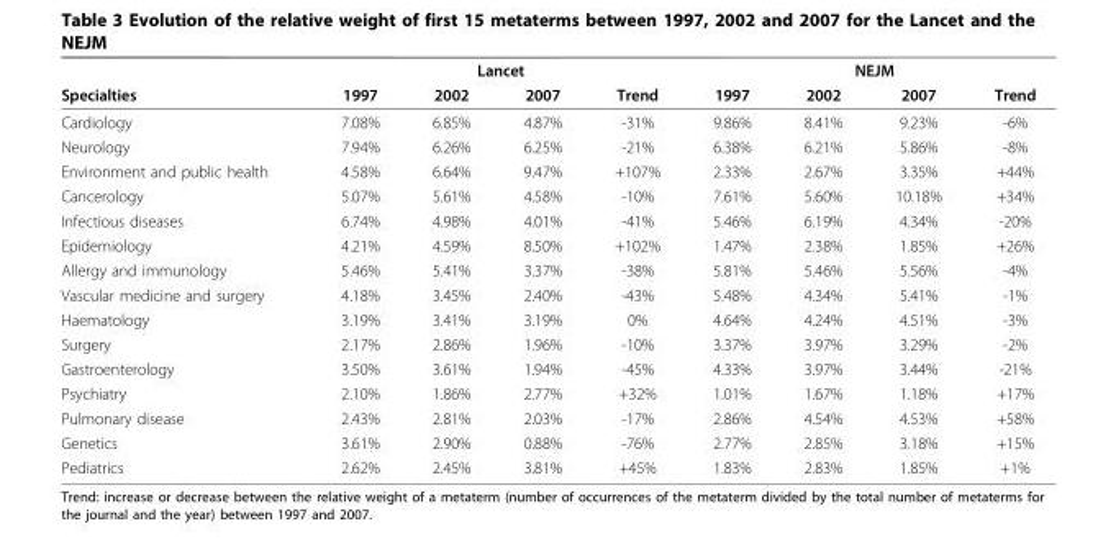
<table><thead><tr><td rowspan="2">Specialties</td><td colspan="4">Lancet</td><td colspan="4">NEJM</td></tr><tr><td>1997</td><td>2002</td><td>2007</td><td>Trend</td><td>1997</td><td>2002</td><td>2007</td><td>Trend</td></tr></thead><tbody><tr><td>Cardiology</td><td>7.08%</td><td>6.85%</td><td>4.87%</td><td>-31%</td><td>9.86%</td><td>8.41%</td><td>9.23%</td><td>-6%</td></tr><tr><td>Neurology</td><td>7.94%</td><td>6.26%</td><td>6.25%</td><td>-21%</td><td>6.38%</td><td>6.21%</td><td>5.86%</td><td>-8%</td></tr><tr><td>Environment and public health</td><td>4.58%</td><td>6.64%</td><td>9.47%</td><td>+107%</td><td>2.33%</td><td>2.67%</td><td>3.35%</td><td>+44%</td></tr><tr><td>Cancerology</td><td>5.07%</td><td>5.61%</td><td>4.58%</td><td>-10%</td><td>7.61%</td><td>5.60%</td><td>10.18%</td><td>+34%</td></tr><tr><td>Infectious diseases</td><td>6.74%</td><td>4.98%</td><td>4.01%</td><td>-41%</td><td>5.46%</td><td>6.19%</td><td>4.34%</td><td>-20%</td></tr><tr><td>Epidemiology</td><td>4.21%</td><td>4.59%</td><td>8.50%</td><td>+102%</td><td>1.47%</td><td>2.38%</td><td>1.85%</td><td>+26%</td></tr><tr><td>Allergy and immunology</td><td>5.46%</td><td>5.41%</td><td>3.37%</td><td>-38%</td><td>5.81%</td><td>5.46%</td><td>5.56%</td><td>-4%</td></tr><tr><td>Vascular medicine and surgery</td><td>4.18%</td><td>3.45%</td><td>2.40%</td><td>-43%</td><td>5.48%</td><td>4.34%</td><td>5.41%</td><td>-1%</td></tr><tr><td>Haematology</td><td>3.19%</td><td>3.41%</td><td>3.19%</td><td>0%</td><td>4.64%</td><td>4.24%</td><td>4.51%</td><td>-3%</td></tr><tr><td>Surgery</td><td>2.17%</td><td>2.86%</td><td>1.96%</td><td>-10%</td><td>3.37%</td><td>3.97%</td><td>3.29%</td><td>-2%</td></tr><tr><td>Gastroenterology</td><td>3.50%</td><td>3.61%</td><td>1.94%</td><td>-45%</td><td>4.33%</td><td>3.97%</td><td>3.44%</td><td>-21%</td></tr><tr><td>Psychiatry</td><td>2.10%</td><td>1.86%</td><td>2.77%</td><td>+32%</td><td>1.01%</td><td>1.67%</td><td>1.18%</td><td>+17%</td></tr><tr><td>Pulmonary disease</td><td>2.43%</td><td>2.81%</td><td>2.03%</td><td>-17%</td><td>2.86%</td><td>4.54%</td><td>4.53%</td><td>+58%</td></tr><tr><td>Genetics</td><td>3.61%</td><td>2.90%</td><td>0.88%</td><td>-76%</td><td>2.77%</td><td>2.85%</td><td>3.18%</td><td>+15%</td></tr><tr><td>Pediatrics</td><td>2.62%</td><td>2.45%</td><td>3.81%</td><td>+45%</td><td>1.83%</td><td>2.83%</td><td>1.85%</td><td>+1%</td></tr></tbody></table>